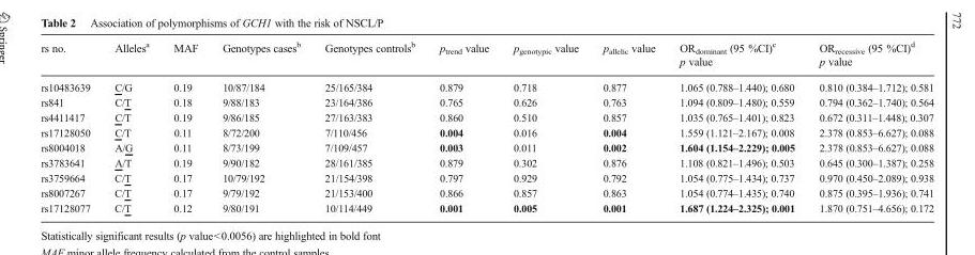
<table><thead><tr><td>rs no.</td><td>Alleles<sup>a</sup></td><td>MAF</td><td>Genotypes cases<sup>b</sup></td><td>Genotypes controls<sup>b</sup></td><td>p<sub>trend</sub> value</td><td>p<sub>genotypic</sub> value</td><td>p<sub>allelic</sub> value</td><td>OR<sub>dominant</sub> (95 %CI)<sup>c</sup> p value</td><td>OR<sub>recessive</sub> (95 %CI)<sup>d</sup> p value</td></tr></thead><tbody><tr><td>rs10483639</td><td>C/G</td><td>0.19</td><td>10/87/184</td><td>25/165/384</td><td>0.879</td><td>0.718</td><td>0.877</td><td>1.065 (0.788–1.440); 0.680</td><td>0.810 (0.384–1.712); 0.581</td></tr><tr><td>rs841</td><td>C/T</td><td>0.18</td><td>9/88/183</td><td>23/164/386</td><td>0.765</td><td>0.626</td><td>0.763</td><td>1.094 (0.809–1.480); 0.559</td><td>0.794 (0.362–1.740); 0.564</td></tr><tr><td>rs4411417</td><td>C/T</td><td>0.19</td><td>9/86/185</td><td>27/163/383</td><td>0.860</td><td>0.510</td><td>0.857</td><td>1.035 (0.765–1.401); 0.823</td><td>0.672 (0.311–1.448); 0.307</td></tr><tr><td>rs17128050</td><td>C/T</td><td>0.11</td><td>8/72/200</td><td>7/110/456</td><td>0.004</td><td>0.016</td><td>0.004</td><td>1.559 (1.121–2.167); 0.008</td><td>2.378 (0.853–6.627); 0.088</td></tr><tr><td>rs8004018</td><td>A/G</td><td>0.11</td><td>8/73/199</td><td>7/109/457</td><td>0.003</td><td>0.011</td><td>0.002</td><td>1.604 (1.154–2.229); 0.005</td><td>2.378 (0.853–6.627); 0.088</td></tr><tr><td>rs3783641</td><td>A/T</td><td>0.19</td><td>9/90/182</td><td>28/161/385</td><td>0.879</td><td>0.302</td><td>0.876</td><td>1.108 (0.821–1.496); 0.503</td><td>0.645 (0.300–1.387); 0.258</td></tr><tr><td>rs3759664</td><td>C/T</td><td>0.17</td><td>10/79/192</td><td>21/154/398</td><td>0.797</td><td>0.929</td><td>0.792</td><td>1.054 (0.775–1.434); 0.737</td><td>0.970 (0.450–2.089); 0.938</td></tr><tr><td>rs8007267</td><td>C/T</td><td>0.17</td><td>9/79/192</td><td>21/153/400</td><td>0.866</td><td>0.857</td><td>0.863</td><td>1.054 (0.774–1.435); 0.740</td><td>0.875 (0.395–1.936); 0.741</td></tr><tr><td>rs17128077</td><td>C/T</td><td>0.12</td><td>9/80/191</td><td>10/114/449</td><td>0.001</td><td>0.005</td><td>0.001</td><td>1.687 (1.224–2.325); 0.001</td><td>1.870 (0.751–4.656); 0.172</td></tr></tbody></table>